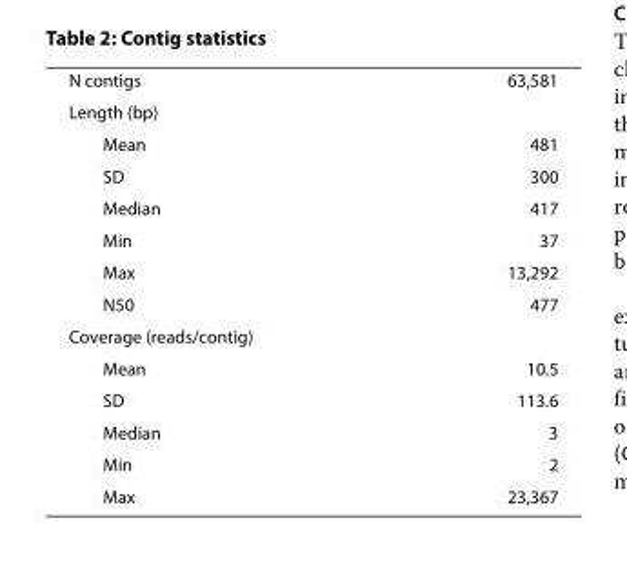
<table><tbody><tr><td>N contigs</td><td>63,581</td></tr><tr><td colspan="2">Length (bp)</td></tr><tr><td>Mean</td><td>481</td></tr><tr><td>SD</td><td>300</td></tr><tr><td>Median</td><td>417</td></tr><tr><td>Min</td><td>37</td></tr><tr><td>Max</td><td>13,292</td></tr><tr><td>N50</td><td>477</td></tr><tr><td colspan="2">Coverage (reads/contig)</td></tr><tr><td>Mean</td><td>10.5</td></tr><tr><td>SD</td><td>113.6</td></tr><tr><td>Median</td><td>3</td></tr><tr><td>Min</td><td>2</td></tr><tr><td>Max</td><td>23,367</td></tr></tbody></table>